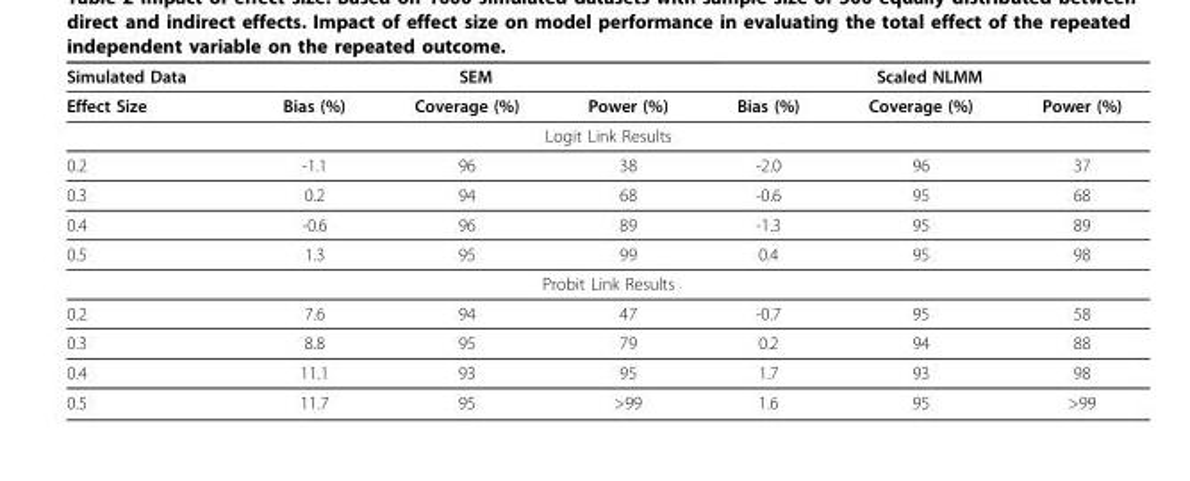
<table><thead><tr><td rowspan="2">Simulated Data Effect Size</td><td colspan="3">SEM</td><td colspan="3">Scaled NLMM</td></tr><tr><td>Bias (%)</td><td>Coverage (%)</td><td>Power (%)</td><td>Bias (%)</td><td>Coverage (%)</td><td>Power (%)</td></tr></thead><tbody><tr><td colspan="7">Logit Link Results</td></tr><tr><td>0.2</td><td>-1.1</td><td>96</td><td>38</td><td>-2.0</td><td>96</td><td>37</td></tr><tr><td>0.3</td><td>0.2</td><td>94</td><td>68</td><td>-0.6</td><td>95</td><td>68</td></tr><tr><td>0.4</td><td>-0.6</td><td>96</td><td>89</td><td>-1.3</td><td>95</td><td>89</td></tr><tr><td>0.5</td><td>1.3</td><td>95</td><td>99</td><td>0.4</td><td>95</td><td>98</td></tr><tr><td colspan="7">Probit Link Results</td></tr><tr><td>0.2</td><td>7.6</td><td>94</td><td>47</td><td>-0.7</td><td>95</td><td>58</td></tr><tr><td>0.3</td><td>8.8</td><td>95</td><td>79</td><td>0.2</td><td>94</td><td>88</td></tr><tr><td>0.4</td><td>11.1</td><td>93</td><td>95</td><td>1.7</td><td>93</td><td>98</td></tr><tr><td>0.5</td><td>11.7</td><td>95</td><td>&gt;99</td><td>1.6</td><td>95</td><td>&gt;99</td></tr></tbody></table>